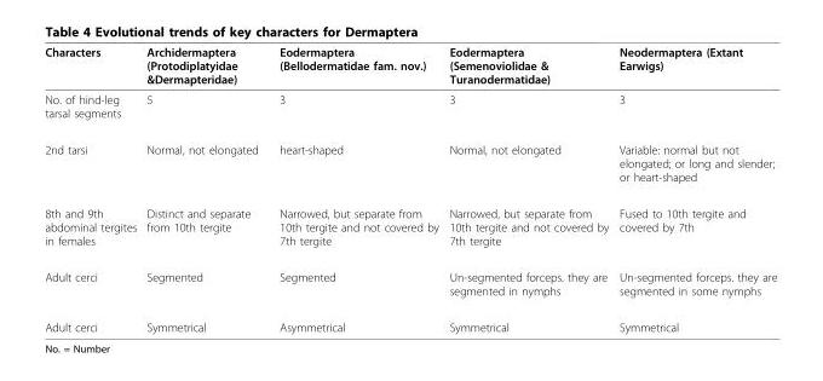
<table><thead><tr><td>Characters</td><td>Archidermaptera (Protodiplatyidae &amp;Dermapteridae)</td><td>Eodermaptera (Bellodermatidae fam. nov.)</td><td>Eodermaptera (Semenoviolidae &amp; Turanodermatidae)</td><td>Neodermaptera (Extant Earwigs)</td></tr></thead><tbody><tr><td>No. of hind-leg tarsal segments</td><td>5</td><td>3</td><td>3</td><td>3</td></tr><tr><td>2nd tarsi</td><td>Normal, not elongated</td><td>heart-shaped</td><td>Normal, not elongated</td><td>Variable: normal but not elongated; or long and slender; or heart-shaped</td></tr><tr><td>8th and 9th abdominal tergites in females</td><td>Distinct and separate from 10th tergite</td><td>Narrowed, but separate from 10th tergite and not covered by 7th tergite</td><td>Narrowed, but separate from 10th tergite and not covered by 7th tergite</td><td>Fused to 10th tergite and covered by 7th</td></tr><tr><td>Adult cerci</td><td>Segmented</td><td>Segmented</td><td>Un-segmented forceps. they are segmented in nymphs</td><td>Un-segmented forceps. they are segmented in some nymphs</td></tr><tr><td>Adult cerci</td><td>Symmetrical</td><td>Asymmetrical</td><td>Symmetrical</td><td>Symmetrical</td></tr></tbody></table>